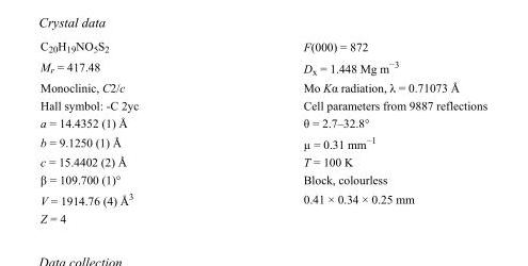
<table><tbody><tr><td>C<sub>20</sub>H<sub>19</sub>NO<sub>5</sub>S<sub>2</sub></td><td>F(000) = 872</td></tr><tr><td>M<sub>r</sub> = 417.48</td><td>D<sub>x</sub> = 1.448 Mg m<sup>−3</sup></td></tr><tr><td>Monoclinic, C2/c</td><td>Mo Kα radiation, λ = 0.71073 Å</td></tr><tr><td>Hall symbol: -C 2yc</td><td>Cell parameters from 9887 reflections</td></tr><tr><td>a = 14.4352 (1) Å</td><td>θ = 2.7–32.8°</td></tr><tr><td>b = 9.1250 (1) Å</td><td>µ = 0.31 mm<sup>−1</sup></td></tr><tr><td>c = 15.4402 (2) Å</td><td>T = 100 K</td></tr><tr><td>β = 109.700 (1)°</td><td>Block, colourless</td></tr><tr><td>V = 1914.76 (4) Å<sup>3</sup></td><td>0.41 × 0.34 × 0.25 mm</td></tr><tr><td>Z = 4</td><td></td></tr></tbody></table>